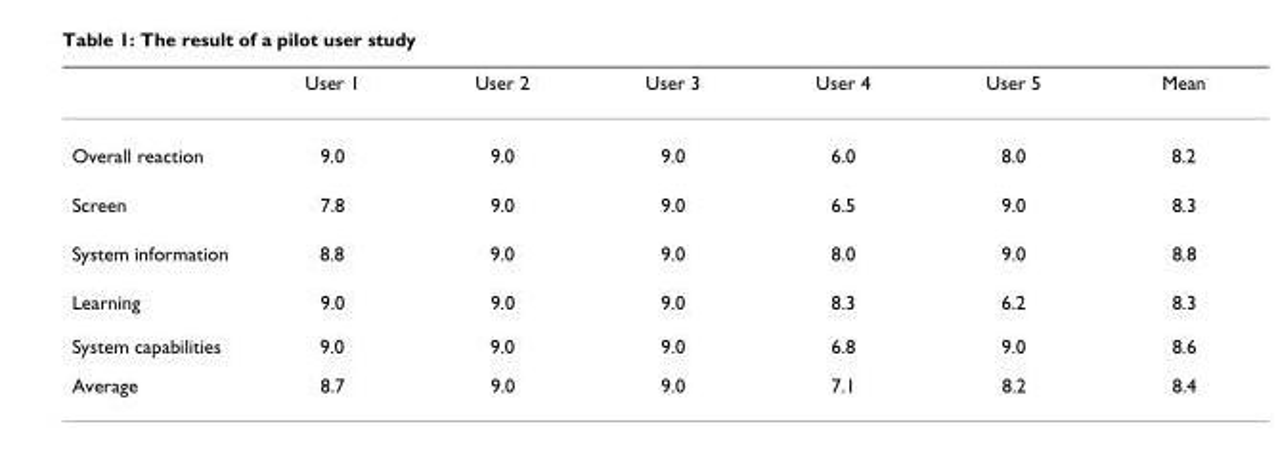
<table><thead><tr><td></td><td>User 1</td><td>User 2</td><td>User 3</td><td>User 4</td><td>User 5</td><td>Mean</td></tr></thead><tbody><tr><td>Overall reaction</td><td>9.0</td><td>9.0</td><td>9.0</td><td>6.0</td><td>8.0</td><td>8.2</td></tr><tr><td>Screen</td><td>7.8</td><td>9.0</td><td>9.0</td><td>6.5</td><td>9.0</td><td>8.3</td></tr><tr><td>System information</td><td>8.8</td><td>9.0</td><td>9.0</td><td>8.0</td><td>9.0</td><td>8.8</td></tr><tr><td>Learning</td><td>9.0</td><td>9.0</td><td>9.0</td><td>8.3</td><td>6.2</td><td>8.3</td></tr><tr><td>System capabilities</td><td>9.0</td><td>9.0</td><td>9.0</td><td>6.8</td><td>9.0</td><td>8.6</td></tr><tr><td>Average</td><td>8.7</td><td>9.0</td><td>9.0</td><td>7.1</td><td>8.2</td><td>8.4</td></tr></tbody></table>